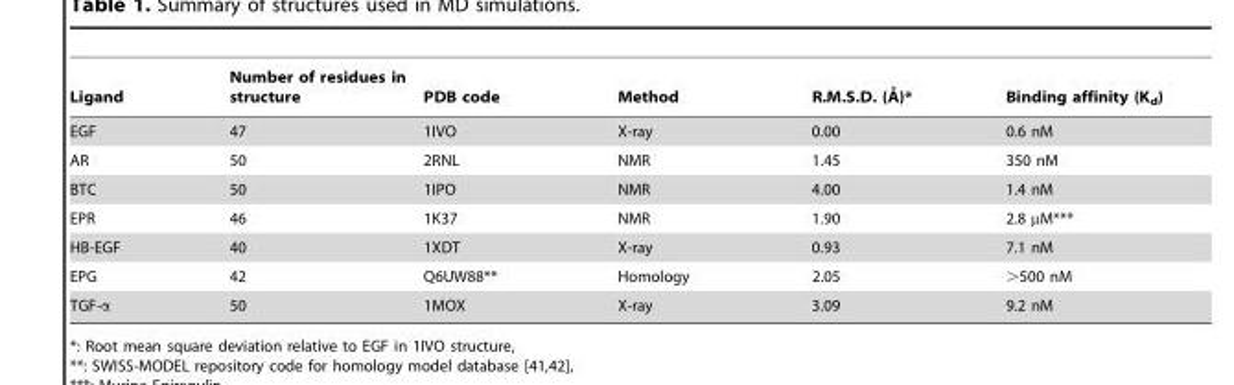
<table><thead><tr><td>Ligand</td><td>Number of residues in structure</td><td>PDB code</td><td>Method</td><td>R.M.S.D. (A˚ )*</td><td>Binding affinity (K<sub>d</sub>)</td></tr></thead><tbody><tr><td>EGF</td><td>47</td><td>1IVO</td><td>X-ray</td><td>0.00</td><td>0.6 nM</td></tr><tr><td>AR</td><td>50</td><td>2RNL</td><td>NMR</td><td>1.45</td><td>350 nM</td></tr><tr><td>BTC</td><td>50</td><td>1IPO</td><td>NMR</td><td>4.00</td><td>1.4 nM</td></tr><tr><td>EPR</td><td>46</td><td>1K37</td><td>NMR</td><td>1.90</td><td>2.8 µM***</td></tr><tr><td>HB-EGF</td><td>40</td><td>1XDT</td><td>X-ray</td><td>0.93</td><td>7.1 nM</td></tr><tr><td>EPG</td><td>42</td><td>Q6UW88**</td><td>Homology</td><td>2.05</td><td>&gt;500 nM</td></tr><tr><td>TGF-α</td><td>50</td><td>1MOX</td><td>X-ray</td><td>3.09</td><td>9.2 nM</td></tr></tbody></table>